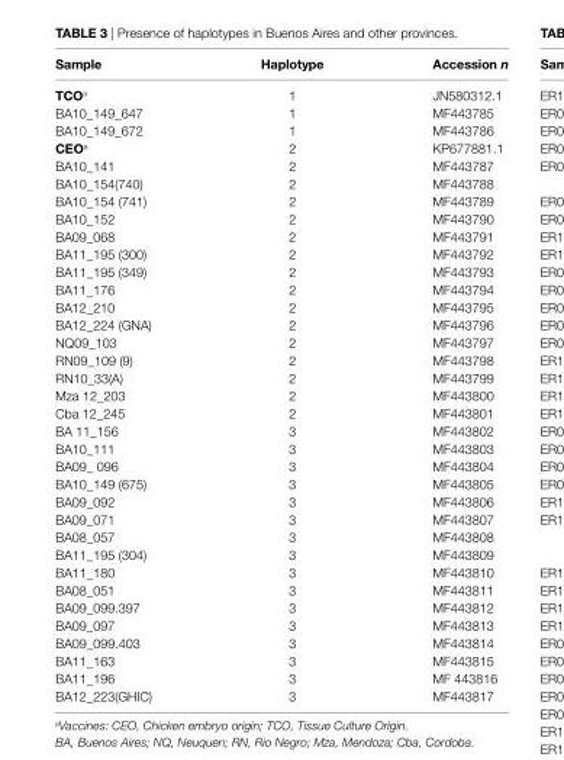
<table><thead><tr><td>sample</td><td>haplotype</td><td>accession n</td></tr></thead><tbody><tr><td>TcO<sup>a</sup></td><td>1</td><td>JN580312.1</td></tr><tr><td>BA10_149_647</td><td>1</td><td>MF443785</td></tr><tr><td>BA10_149_672</td><td>1</td><td>MF443786</td></tr><tr><td>ceO<sup>a</sup></td><td>2</td><td>KP677881.1</td></tr><tr><td>BA10_141</td><td>2</td><td>MF443787</td></tr><tr><td>BA10_154(740)</td><td>2</td><td>MF443788</td></tr><tr><td>BA10_154 (741)</td><td>2</td><td>MF443789</td></tr><tr><td>BA10_152</td><td>2</td><td>MF443790</td></tr><tr><td>BA09_068</td><td>2</td><td>MF443791</td></tr><tr><td>BA11_195 (300)</td><td>2</td><td>MF443792</td></tr><tr><td>BA11_195 (349)</td><td>2</td><td>MF443793</td></tr><tr><td>BA11_176</td><td>2</td><td>MF443794</td></tr><tr><td>BA12_210</td><td>2</td><td>MF443795</td></tr><tr><td>BA12_224 (GNA)</td><td>2</td><td>MF443796</td></tr><tr><td>NQ09_103</td><td>2</td><td>MF443797</td></tr><tr><td>RN09_109 (9)</td><td>2</td><td>MF443798</td></tr><tr><td>RN10_33(A)</td><td>2</td><td>MF443799</td></tr><tr><td>Mza 12_203</td><td>2</td><td>MF443800</td></tr><tr><td>Cba 12_245</td><td>2</td><td>MF443801</td></tr><tr><td>BA 11_156</td><td>3</td><td>MF443802</td></tr><tr><td>BA10_111</td><td>3</td><td>MF443803</td></tr><tr><td>BA09_ 096</td><td>3</td><td>MF443804</td></tr><tr><td>BA10_149 (675)</td><td>3</td><td>MF443805</td></tr><tr><td>BA09_092</td><td>3</td><td>MF443806</td></tr><tr><td>BA09_071</td><td>3</td><td>MF443807</td></tr><tr><td>BA08_057</td><td>3</td><td>MF443808</td></tr><tr><td>BA11_195 (304)</td><td>3</td><td>MF443809</td></tr><tr><td>BA11_180</td><td>3</td><td>MF443810</td></tr><tr><td>BA08_051</td><td>3</td><td>MF443811</td></tr><tr><td>BA09_099.397</td><td>3</td><td>MF443812</td></tr><tr><td>BA09_097</td><td>3</td><td>MF443813</td></tr><tr><td>BA09_099.403</td><td>3</td><td>MF443814</td></tr><tr><td>BA11_163</td><td>3</td><td>MF443815</td></tr><tr><td>BA11_196</td><td>3</td><td>MF 443816</td></tr><tr><td>BA12_223(GHIC)</td><td>3</td><td>MF443817</td></tr></tbody></table>